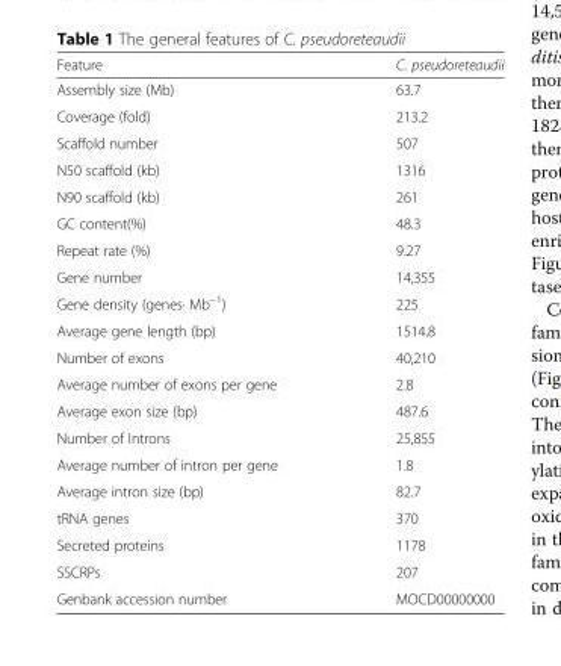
<table><thead><tr><td>Feature</td><td>C. pseudoreteaudii</td></tr></thead><tbody><tr><td>Assembly size (Mb)</td><td>63.7</td></tr><tr><td>Coverage (fold)</td><td>213.2</td></tr><tr><td>Scaffold number</td><td>507</td></tr><tr><td>N50 scaffold (kb)</td><td>1316</td></tr><tr><td>N90 scaffold (kb)</td><td>261</td></tr><tr><td>GC content(%)</td><td>48.3</td></tr><tr><td>Repeat rate (%)</td><td>9.27</td></tr><tr><td>Gene number</td><td>14,355</td></tr><tr><td>Gene density (genes· Mb<sup>−1</sup>)</td><td>225</td></tr><tr><td>Average gene length (bp)</td><td>1514.8</td></tr><tr><td>Number of exons</td><td>40,210</td></tr><tr><td>Average number of exons per gene</td><td>2.8</td></tr><tr><td>Average exon size (bp)</td><td>487.6</td></tr><tr><td>Number of Introns</td><td>25,855</td></tr><tr><td>Average number of intron per gene</td><td>1.8</td></tr><tr><td>Average intron size (bp)</td><td>82.7</td></tr><tr><td>tRNA genes</td><td>370</td></tr><tr><td>Secreted proteins</td><td>1178</td></tr><tr><td>SSCRPs</td><td>207</td></tr><tr><td>Genbank accession number</td><td>MOCD00000000</td></tr></tbody></table>